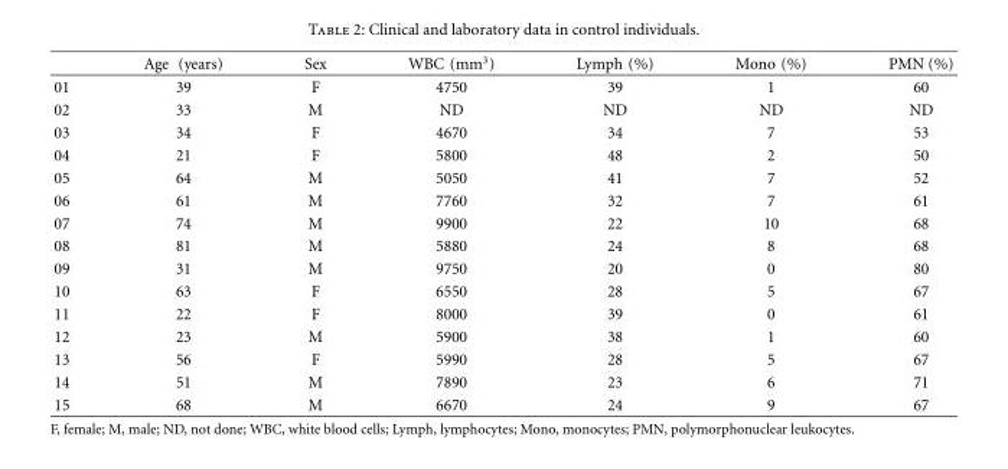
<table><thead><tr><td></td><td>Age (years)</td><td>Sex</td><td>WBC (mm<sup>3</sup>)</td><td>Lymph (%)</td><td>Mono (%)</td><td>PMN (%)</td></tr></thead><tbody><tr><td>01</td><td>39</td><td>F</td><td>4750</td><td>39</td><td>1</td><td>60</td></tr><tr><td>02</td><td>33</td><td>M</td><td>ND</td><td>ND</td><td>ND</td><td>ND</td></tr><tr><td>03</td><td>34</td><td>F</td><td>4670</td><td>34</td><td>7</td><td>53</td></tr><tr><td>04</td><td>21</td><td>F</td><td>5800</td><td>48</td><td>2</td><td>50</td></tr><tr><td>05</td><td>64</td><td>M</td><td>5050</td><td>41</td><td>7</td><td>52</td></tr><tr><td>06</td><td>61</td><td>M</td><td>7760</td><td>32</td><td>7</td><td>61</td></tr><tr><td>07</td><td>74</td><td>M</td><td>9900</td><td>22</td><td>10</td><td>68</td></tr><tr><td>08</td><td>81</td><td>M</td><td>5880</td><td>24</td><td>8</td><td>68</td></tr><tr><td>09</td><td>31</td><td>M</td><td>9750</td><td>20</td><td>0</td><td>80</td></tr><tr><td>10</td><td>63</td><td>F</td><td>6550</td><td>28</td><td>5</td><td>67</td></tr><tr><td>11</td><td>22</td><td>F</td><td>8000</td><td>39</td><td>0</td><td>61</td></tr><tr><td>12</td><td>23</td><td>M</td><td>5900</td><td>38</td><td>1</td><td>60</td></tr><tr><td>13</td><td>56</td><td>F</td><td>5990</td><td>28</td><td>5</td><td>67</td></tr><tr><td>14</td><td>51</td><td>M</td><td>7890</td><td>23</td><td>6</td><td>71</td></tr><tr><td>15</td><td>68</td><td>M</td><td>6670</td><td>24</td><td>9</td><td>67</td></tr></tbody></table>